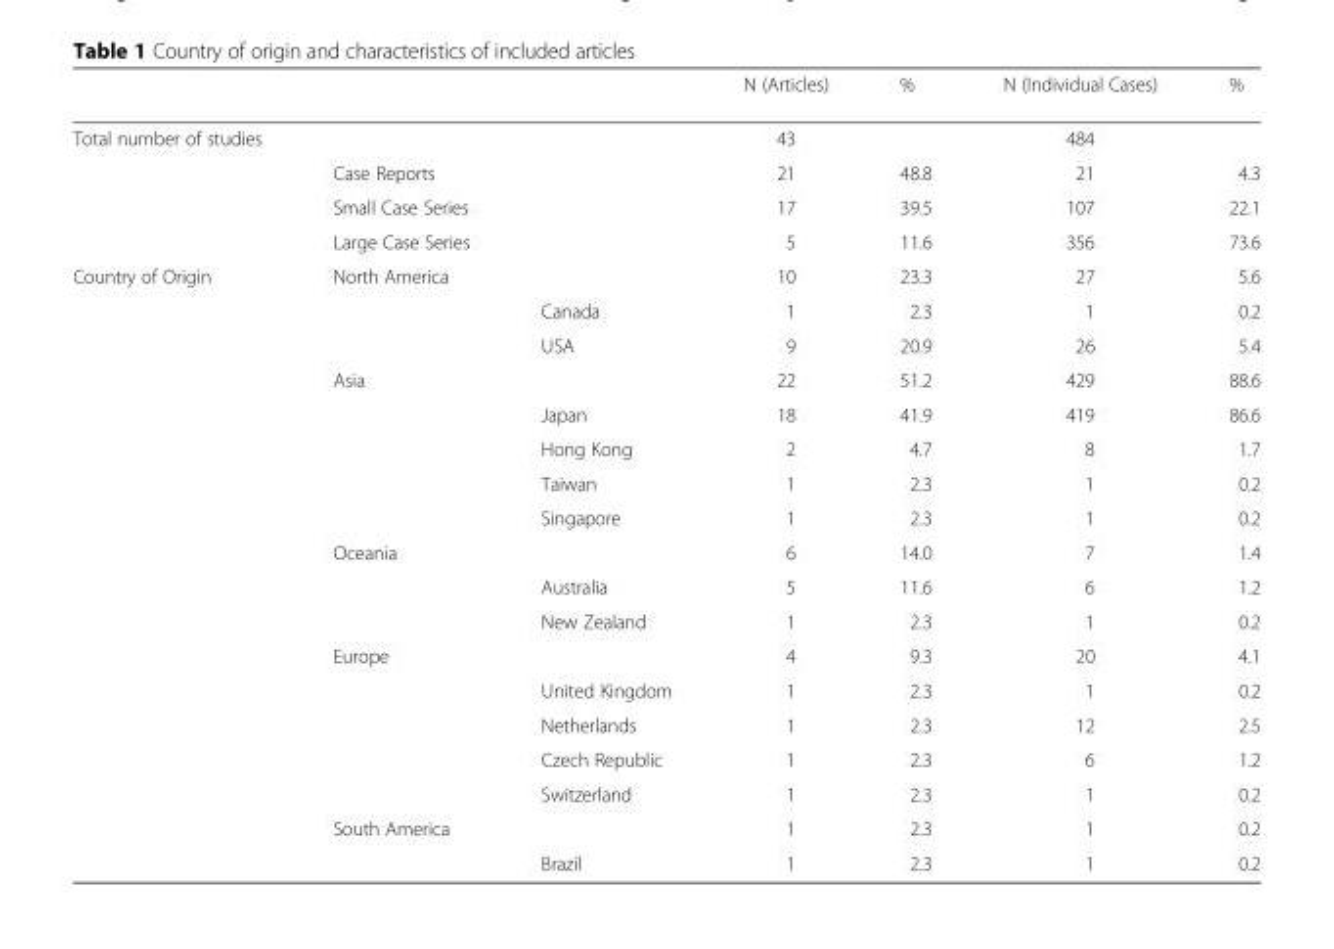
<table><thead><tr><td></td><td></td><td></td><td>N (Articles)</td><td>%</td><td>N (Individual Cases)</td><td>%</td></tr></thead><tbody><tr><td rowspan="4">Total number of studies</td><td></td><td></td><td>43</td><td></td><td>484</td><td></td></tr><tr><td>Case Reports</td><td></td><td>21</td><td>48.8</td><td>21</td><td>4.3</td></tr><tr><td>Small Case Series</td><td></td><td>17</td><td>39.5</td><td>107</td><td>22.1</td></tr><tr><td>Large Case Series</td><td></td><td>5</td><td>11.6</td><td>356</td><td>73.6</td></tr><tr><td rowspan="18">Country of Origin</td><td>North America</td><td></td><td>10</td><td>23.3</td><td>27</td><td>5.6</td></tr><tr><td></td><td>Canada</td><td>1</td><td>2.3</td><td>1</td><td>0.2</td></tr><tr><td></td><td>USA</td><td>9</td><td>20.9</td><td>26</td><td>5.4</td></tr><tr><td>Asia</td><td></td><td>22</td><td>51.2</td><td>429</td><td>88.6</td></tr><tr><td></td><td>Japan</td><td>18</td><td>41.9</td><td>419</td><td>86.6</td></tr><tr><td></td><td>Hong Kong</td><td>2</td><td>4.7</td><td>8</td><td>1.7</td></tr><tr><td></td><td>Taiwan</td><td>1</td><td>2.3</td><td>1</td><td>0.2</td></tr><tr><td></td><td>Singapore</td><td>1</td><td>2.3</td><td>1</td><td>0.2</td></tr><tr><td>Oceania</td><td></td><td>6</td><td>14.0</td><td>7</td><td>1.4</td></tr><tr><td></td><td>Australia</td><td>5</td><td>11.6</td><td>6</td><td>1.2</td></tr><tr><td></td><td>New Zealand</td><td>1</td><td>2.3</td><td>1</td><td>0.2</td></tr><tr><td>Europe</td><td></td><td>4</td><td>9.3</td><td>20</td><td>4.1</td></tr><tr><td></td><td>United Kingdom</td><td>1</td><td>2.3</td><td>1</td><td>0.2</td></tr><tr><td></td><td>Netherlands</td><td>1</td><td>2.3</td><td>12</td><td>2.5</td></tr><tr><td></td><td>Czech Republic</td><td>1</td><td>2.3</td><td>6</td><td>1.2</td></tr><tr><td></td><td>Switzerland</td><td>1</td><td>2.3</td><td>1</td><td>0.2</td></tr><tr><td>South America</td><td></td><td>1</td><td>2.3</td><td>1</td><td>0.2</td></tr><tr><td></td><td>Brazil</td><td>1</td><td>2.3</td><td>1</td><td>0.2</td></tr></tbody></table>